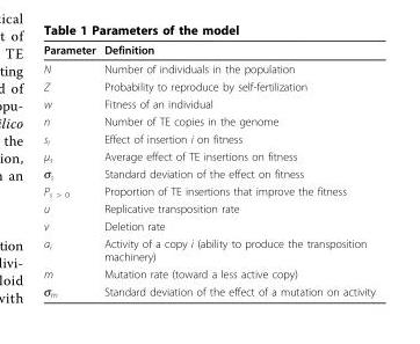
<table><thead><tr><td>Parameter</td><td>Definition</td></tr></thead><tbody><tr><td>N</td><td>Number of individuals in the population</td></tr><tr><td>Z</td><td>Probability to reproduce by self-fertilization</td></tr><tr><td>w</td><td>Fitness of an individual</td></tr><tr><td>n</td><td>Number of TE copies in the genome</td></tr><tr><td>s<sub>i</sub></td><td>Effect of insertion i on fitness</td></tr><tr><td>μ<sub>s</sub></td><td>Average effect of TE insertions on fitness</td></tr><tr><td>σ<sub>s</sub></td><td>Standard deviation of the effect on fitness</td></tr><tr><td>P<sub>s &gt; 0</sub></td><td>Proportion of TE insertions that improve the fitness</td></tr><tr><td>u</td><td>Replicative transposition rate</td></tr><tr><td>v</td><td>Deletion rate</td></tr><tr><td>a<sub>i</sub></td><td>Activity of a copy i (ability to produce the transposition machinery)</td></tr><tr><td>m</td><td>Mutation rate (toward a less active copy)</td></tr><tr><td>σ<sub>m</sub></td><td>Standard deviation of the effect of a mutation on activity</td></tr></tbody></table>